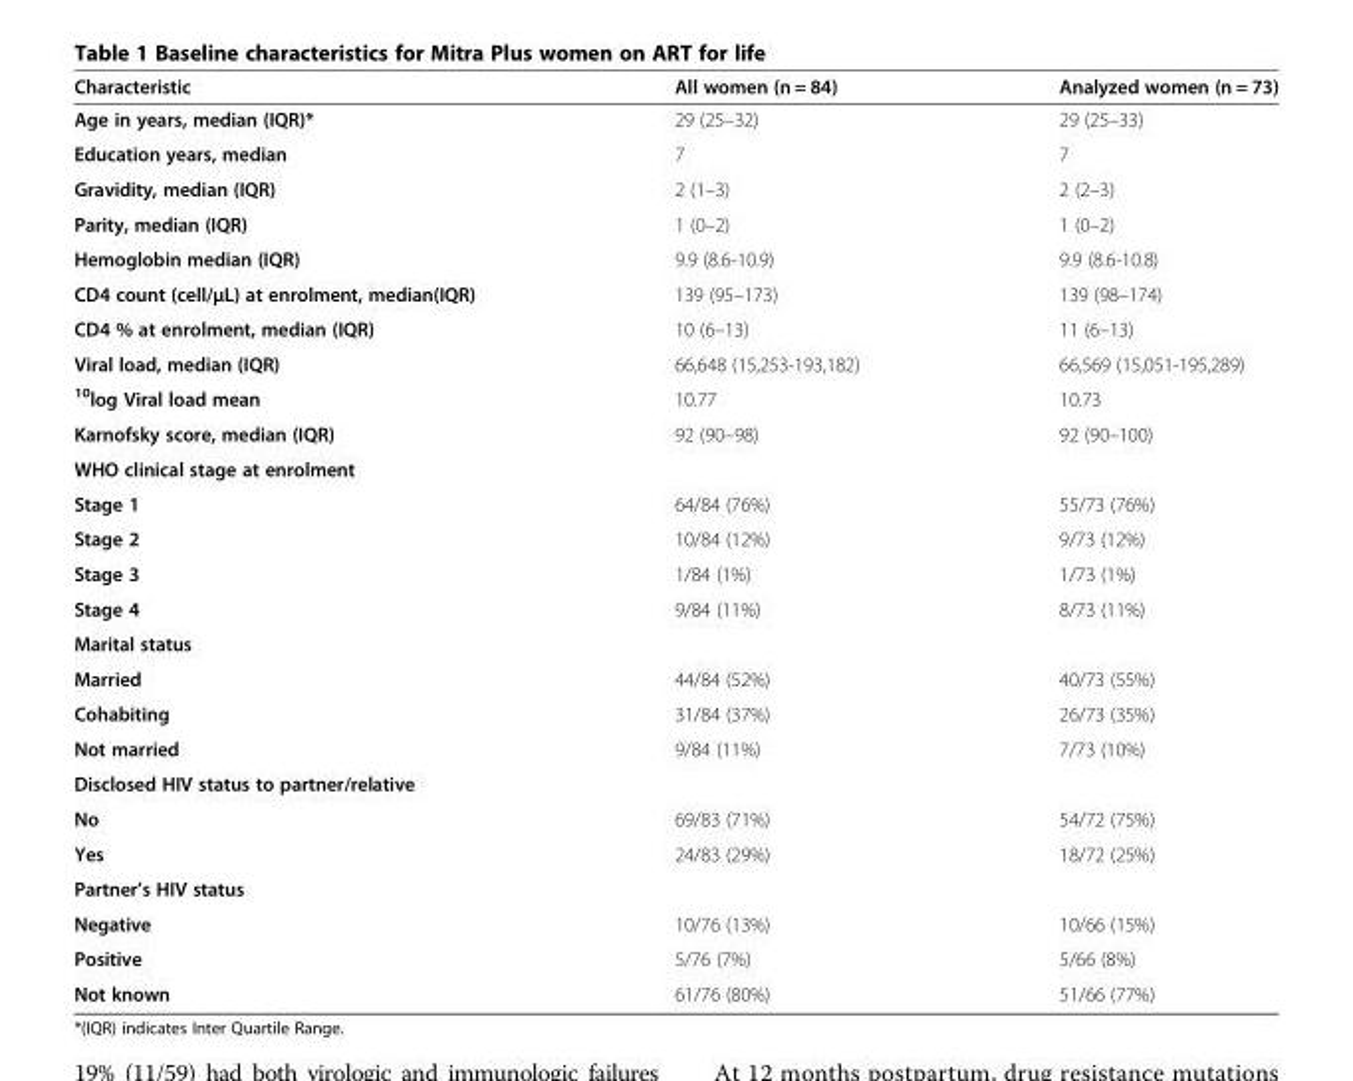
<table><thead><tr><td>Characteristic</td><td>All women (n = 84)</td><td>Analyzed women (n = 73)</td></tr></thead><tbody><tr><td>Age in years, median (IQR)*</td><td>29 (25–32)</td><td>29 (25–33)</td></tr><tr><td>Education years, median</td><td>7</td><td>7</td></tr><tr><td>Gravidity, median (IQR)</td><td>2 (1–3)</td><td>2 (2–3)</td></tr><tr><td>Parity, median (IQR)</td><td>1 (0–2)</td><td>1 (0–2)</td></tr><tr><td>Hemoglobin median (IQR)</td><td>9.9 (8.6-10.9)</td><td>9.9 (8.6-10.8)</td></tr><tr><td>CD4 count (cell/μL) at enrolment, median(IQR)</td><td>139 (95–173)</td><td>139 (98–174)</td></tr><tr><td>CD4 % at enrolment, median (IQR)</td><td>10 (6–13)</td><td>11 (6–13)</td></tr><tr><td>Viral load, median (IQR)</td><td>66,648 (15,253-193,182)</td><td>66,569 (15,051-195,289)</td></tr><tr><td><sup>10</sup>log Viral load mean</td><td>10.77</td><td>10.73</td></tr><tr><td>Karnofsky score, median (IQR)</td><td>92 (90–98)</td><td>92 (90–100)</td></tr><tr><td colspan="3">WHO clinical stage at enrolment</td></tr><tr><td>Stage 1</td><td>64/84 (76%)</td><td>55/73 (76%)</td></tr><tr><td>Stage 2</td><td>10/84 (12%)</td><td>9/73 (12%)</td></tr><tr><td>Stage 3</td><td>1/84 (1%)</td><td>1/73 (1%)</td></tr><tr><td>Stage 4</td><td>9/84 (11%)</td><td>8/73 (11%)</td></tr><tr><td colspan="3">Marital status</td></tr><tr><td>Married</td><td>44/84 (52%)</td><td>40/73 (55%)</td></tr><tr><td>Cohabiting</td><td>31/84 (37%)</td><td>26/73 (35%)</td></tr><tr><td>Not married</td><td>9/84 (11%)</td><td>7/73 (10%)</td></tr><tr><td colspan="3">Disclosed HIV status to partner/relative</td></tr><tr><td>No</td><td>69/83 (71%)</td><td>54/72 (75%)</td></tr><tr><td>Yes</td><td>24/83 (29%)</td><td>18/72 (25%)</td></tr><tr><td colspan="3">Partner’s HIV status</td></tr><tr><td>Negative</td><td>10/76 (13%)</td><td>10/66 (15%)</td></tr><tr><td>Positive</td><td>5/76 (7%)</td><td>5/66 (8%)</td></tr><tr><td>Not known</td><td>61/76 (80%)</td><td>51/66 (77%)</td></tr></tbody></table>